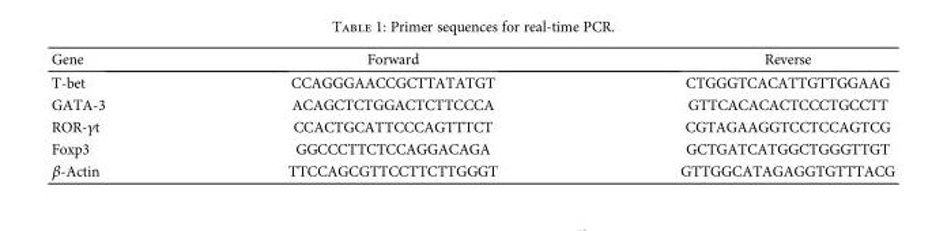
<table><thead><tr><td>Gene</td><td>Forward</td><td>Reverse</td></tr></thead><tbody><tr><td>T-bet</td><td>CCAGGGAACCGCTTATATGT</td><td>CTGGGTCACATTGTTGGAAG</td></tr><tr><td>GATA-3</td><td>ACAGCTCTGGACTCTTCCCA</td><td>GTTCACACACTCCCTGCCTT</td></tr><tr><td>ROR-γt</td><td>CCACTGCATTCCCAGTTTCT</td><td>CGTAGAAGGTCCTCCAGTCG</td></tr><tr><td>Foxp3</td><td>GGCCCTTCTCCAGGACAGA</td><td>GCTGATCATGGCTGGGTTGT</td></tr><tr><td>β-Actin</td><td>TTCCAGCGTTCCTTCTTGGGT</td><td>GTTGGCATAGAGGTGTTTACG</td></tr></tbody></table>